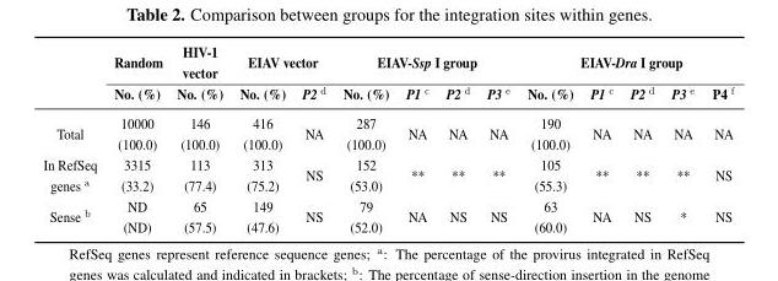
<table><thead><tr><td rowspan="2"></td><td rowspan="2">Random No. (%)</td><td rowspan="2">HIV-1 vector No. (%)</td><td colspan="2">EIAV vector</td><td colspan="4">EIAV-Ssp I group</td><td colspan="5">EIAV-Dra I group</td></tr><tr><td>No. (%)</td><td>P2 <sup>d</sup></td><td>No. (%)</td><td>P1 <sup>c</sup></td><td>P2 <sup>d</sup></td><td>P3 <sup>e</sup></td><td>No. (%)</td><td>P1 <sup>c</sup></td><td>P2 <sup>d</sup></td><td>P3 <sup>e</sup></td><td>P4 <sup>f</sup></td></tr></thead><tbody><tr><td>Total</td><td>10000 (100.0)</td><td>146 (100.0)</td><td>416 (100.0)</td><td>NA</td><td>287 (100.0)</td><td>NA</td><td>NA</td><td>NA</td><td>190 (100.0)</td><td>NA</td><td>NA</td><td>NA</td><td>NA</td></tr><tr><td>In RefSeq genes <sup>a</sup></td><td>3315 (33.2)</td><td>113 (77.4)</td><td>313 (75.2)</td><td>NS</td><td>152 (53.0)</td><td>**</td><td>**</td><td>**</td><td>105 (55.3)</td><td>**</td><td>**</td><td>**</td><td>NS</td></tr><tr><td>Sense <sup>b</sup></td><td>ND (ND)</td><td>65 (57.5)</td><td>149 (47.6)</td><td>NS</td><td>79 (52.0)</td><td>NA</td><td>NS</td><td>NS</td><td>63 (60.0)</td><td>NA</td><td>NS</td><td>*</td><td>NS</td></tr></tbody></table>